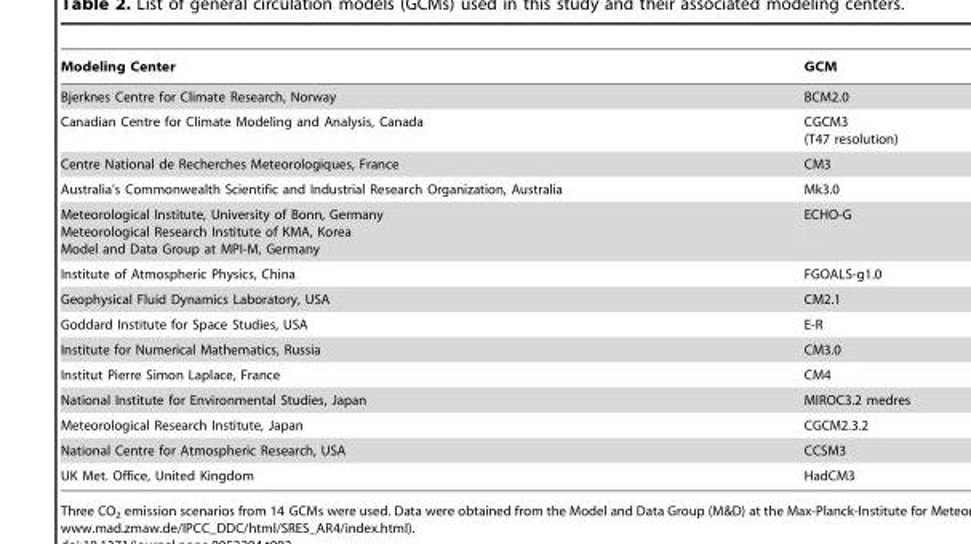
<table><thead><tr><td>Modeling Center</td><td>GCM</td></tr></thead><tbody><tr><td>Bjerknes Centre for Climate Research, Norway</td><td>BCM2.0</td></tr><tr><td>Canadian Centre for Climate Modeling and Analysis, Canada</td><td>CGCM3 (T47 resolution)</td></tr><tr><td>Centre National de Recherches Meteorologiques, France</td><td>CM3</td></tr><tr><td>Australia’s Commonwealth Scientific and Industrial Research Organization, Australia</td><td>Mk3.0</td></tr><tr><td>Meteorological Institute, University of Bonn, Germany Meteorological Research Institute of KMA, Korea Model and Data Group at MPI-M, Germany</td><td>ECHO-G</td></tr><tr><td>Institute of Atmospheric Physics, China</td><td>FGOALS-g1.0</td></tr><tr><td>Geophysical Fluid Dynamics Laboratory, USA</td><td>CM2.1</td></tr><tr><td>Goddard Institute for Space Studies, USA</td><td>E-R</td></tr><tr><td>Institute for Numerical Mathematics, Russia</td><td>CM3.0</td></tr><tr><td>Institut Pierre Simon Laplace, France</td><td>CM4</td></tr><tr><td>National Institute for Environmental Studies, Japan</td><td>MIROC3.2 medres</td></tr><tr><td>Meteorological Research Institute, Japan</td><td>CGCM2.3.2</td></tr><tr><td>National Centre for Atmospheric Research, USA</td><td>CCSM3</td></tr><tr><td>UK Met. Office, United Kingdom</td><td>HadCM3</td></tr></tbody></table>